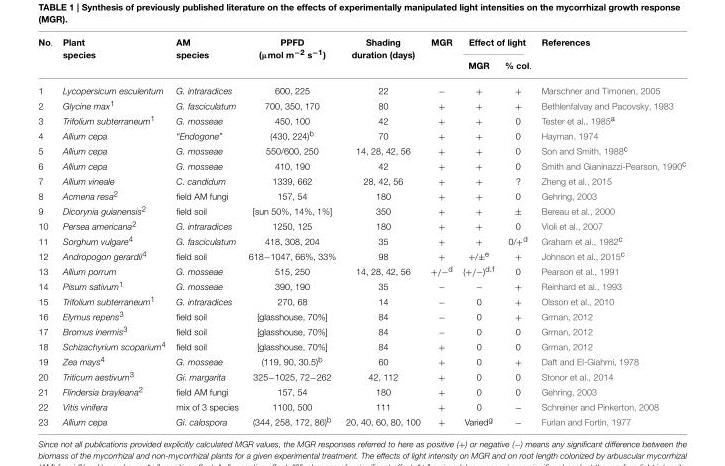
<table><thead><tr><td rowspan="2">No.</td><td rowspan="2">Plant species</td><td rowspan="2">AM species</td><td rowspan="2">PPFD (µmol m<sup>−2</sup> s<sup>−1</sup>)</td><td rowspan="2">Shading duration (days)</td><td rowspan="2">MGR</td><td colspan="2">Effect of light</td><td rowspan="2">References</td></tr><tr><td>MGR</td><td>% col.</td></tr></thead><tbody><tr><td>1</td><td>Lycopersicum esculentum</td><td>G. intraradices</td><td>600, 225</td><td>22</td><td>−</td><td>+</td><td>+</td><td>Marschner and Timonen, 2005</td></tr><tr><td>2</td><td>Glycine max<sup>1</sup></td><td>G. fasciculatum</td><td>700, 350, 170</td><td>80</td><td>+</td><td>+</td><td>+</td><td>Bethlenfalvay and Pacovsky, 1983</td></tr><tr><td>3</td><td>Trifolium subterraneum<sup>1</sup></td><td>G. mosseae</td><td>450, 100</td><td>42</td><td>+</td><td>+</td><td>0</td><td>Tester et al., 1985<sup>a</sup></td></tr><tr><td>4</td><td>Allium cepa</td><td>“Endogone”</td><td>(430, 224)<sup>b</sup></td><td>70</td><td>+</td><td>+</td><td>0</td><td>Hayman, 1974</td></tr><tr><td>5</td><td>Allium cepa</td><td>G. mosseae</td><td>550/600, 250</td><td>14, 28, 42, 56</td><td>+</td><td>+</td><td>0</td><td>Son and Smith, 1988<sup>c</sup></td></tr><tr><td>6</td><td>Allium cepa</td><td>G. mosseae</td><td>410, 190</td><td>42</td><td>+</td><td>+</td><td>0</td><td>Smith and Gianinazzi-Pearson, 1990<sup>c</sup></td></tr><tr><td>7</td><td>Allium vineale</td><td>C. candidum</td><td>1339, 662</td><td>28, 42, 56</td><td>+</td><td>+</td><td>?</td><td>Zheng et al., 2015</td></tr><tr><td>8</td><td>Acmena resa<sup>2</sup></td><td>field AM fungi</td><td>157, 54</td><td>180</td><td>+</td><td>+</td><td>0</td><td>Gehring, 2003</td></tr><tr><td>9</td><td>Dicorynia guianensis<sup>2</sup></td><td>field soil</td><td>[sun 50%, 14%, 1%]</td><td>350</td><td>+</td><td>+</td><td>±</td><td>Bereau et al., 2000</td></tr><tr><td>10</td><td>Persea americana<sup>2</sup></td><td>G. intraradices</td><td>1250, 125</td><td>180</td><td>+</td><td>+</td><td>0</td><td>Violi et al., 2007</td></tr><tr><td>11</td><td>Sorghum vulgare<sup>4</sup></td><td>G. fasciculatum</td><td>418, 308, 204</td><td>35</td><td>+</td><td>+</td><td>0/+<sup>d</sup></td><td>Graham et al., 1982<sup>c</sup></td></tr><tr><td>12</td><td>Andropogon gerardii<sup>4</sup></td><td>field soil</td><td>618−1047, 66%, 33%</td><td>98</td><td>+</td><td>+/±<sup>e</sup></td><td>+</td><td>Johnson et al., 2015<sup>c</sup></td></tr><tr><td>13</td><td>Allium porrum</td><td>G. mosseae</td><td>515, 250</td><td>14, 28, 42, 56</td><td>+/−d</td><td>(+/−)d,f</td><td>0</td><td>Pearson et al., 1991</td></tr><tr><td>14</td><td>Pisum sativum<sup>1</sup></td><td>G. mosseae</td><td>390, 190</td><td>35</td><td>−</td><td>−</td><td>+</td><td>Reinhard et al., 1993</td></tr><tr><td>15</td><td>Trifolium subterraneum<sup>1</sup></td><td>G. intraradices</td><td>270, 68</td><td>14</td><td>−</td><td>0</td><td>+</td><td>Olsson et al., 2010</td></tr><tr><td>16</td><td>Elymus repens<sup>3</sup></td><td>field soil</td><td>[glasshouse, 70%]</td><td>84</td><td>−</td><td>0</td><td>+</td><td>Grman, 2012</td></tr><tr><td>17</td><td>Bromus inermis<sup>3</sup></td><td>field soil</td><td>[glasshouse, 70%]</td><td>84</td><td>−</td><td>0</td><td>0</td><td>Grman, 2012</td></tr><tr><td>18</td><td>Schizachyrium scoparium<sup>4</sup></td><td>field soil</td><td>[glasshouse, 70%]</td><td>84</td><td>+</td><td>0</td><td>0</td><td>Grman, 2012</td></tr><tr><td>19</td><td>Zea mays<sup>4</sup></td><td>G. mosseae</td><td>(119, 90, 30.5)<sup>b</sup></td><td>60</td><td>+</td><td>0</td><td>+</td><td>Daft and El-Giahmi, 1978</td></tr><tr><td>20</td><td>Triticum aestivum<sup>3</sup></td><td>Gi. margarita</td><td>325−1025, 72−262</td><td>42, 112</td><td>+</td><td>0</td><td>0</td><td>Stonor et al., 2014</td></tr><tr><td>21</td><td>Flindersia brayleana<sup>2</sup></td><td>field AM fungi</td><td>157, 54</td><td>180</td><td>+</td><td>0</td><td>0</td><td>Gehring, 2003</td></tr><tr><td>22</td><td>Vitis vinifera</td><td>mix of 3 species</td><td>1100, 500</td><td>111</td><td>+</td><td>0</td><td>−</td><td>Schreiner and Pinkerton, 2008</td></tr><tr><td>23</td><td>Allium cepa</td><td>Gi. calospora</td><td>(344, 258, 172, 86)<sup>b</sup></td><td>20, 40, 60, 80, 100</td><td>+</td><td>Varied<sup>g</sup></td><td>−</td><td>Furlan and Fortin, 1977</td></tr></tbody></table>